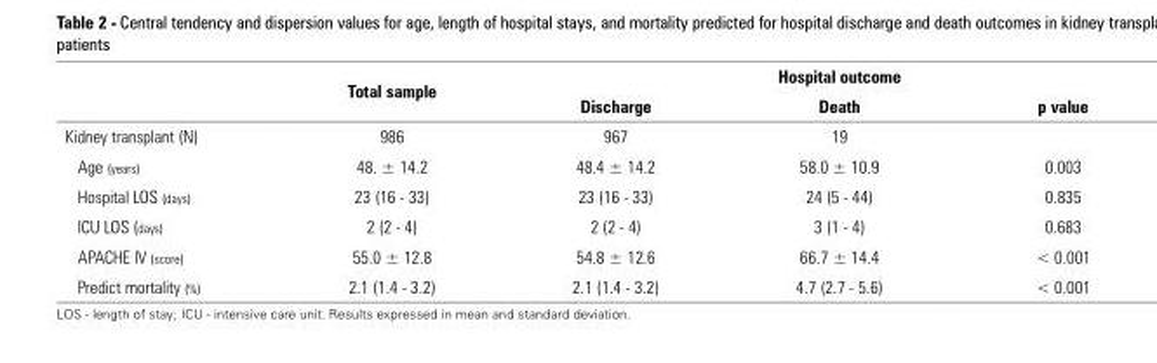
<table><thead><tr><td rowspan="2"></td><td rowspan="2">Total sample</td><td colspan="3">Hospital outcome</td></tr><tr><td>Discharge</td><td>Death</td><td>p value</td></tr></thead><tbody><tr><td>Kidney transplant (N)</td><td>986</td><td>967</td><td>19</td><td></td></tr><tr><td>Age (years)</td><td>48. ± 14.2</td><td>48.4 ± 14.2</td><td>58.0 ± 10.9</td><td>0.003</td></tr><tr><td>Hospital LOS (days)</td><td>23 (16 - 33)</td><td>23 (16 - 33)</td><td>24 (5 - 44)</td><td>0.835</td></tr><tr><td>ICU LOS (days)</td><td>2 (2 - 4)</td><td>2 (2 - 4)</td><td>3 (1 - 4)</td><td>0.683</td></tr><tr><td>APACHE IV (score)</td><td>55.0 ± 12.8</td><td>54.8 ± 12.6</td><td>66.7 ± 14.4</td><td>&lt; 0.001</td></tr><tr><td>Predict mortality (%)</td><td>2.1 (1.4 - 3.2)</td><td>2.1 (1.4 - 3.2)</td><td>4.7 (2.7 - 5.6)</td><td>&lt; 0.001</td></tr></tbody></table>